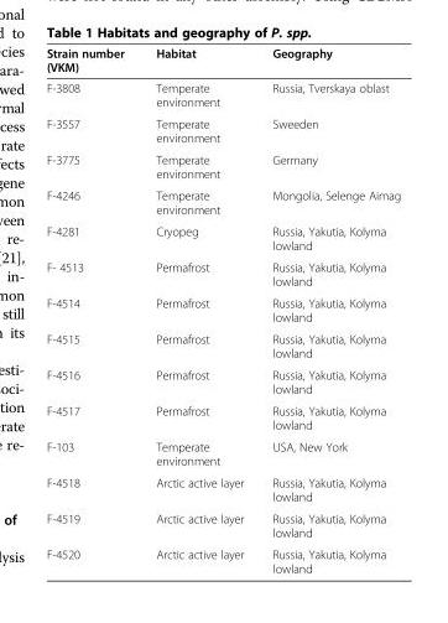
<table><thead><tr><td>Strain number (VKM)</td><td>Habitat</td><td>Geography</td></tr></thead><tbody><tr><td>F-3808</td><td>Temperate environment</td><td>Russia, Tverskaya oblast</td></tr><tr><td>F-3557</td><td>Temperate environment</td><td>Sweeden</td></tr><tr><td>F-3775</td><td>Temperate environment</td><td>Germany</td></tr><tr><td>F-4246</td><td>Temperate environment</td><td>Mongolia, Selenge Aimag</td></tr><tr><td>F-4281</td><td>Cryopeg</td><td>Russia, Yakutia, Kolyma lowland</td></tr><tr><td>F- 4513</td><td>Permafrost</td><td>Russia, Yakutia, Kolyma lowland</td></tr><tr><td>F-4514</td><td>Permafrost</td><td>Russia, Yakutia, Kolyma lowland</td></tr><tr><td>F-4515</td><td>Permafrost</td><td>Russia, Yakutia, Kolyma lowland</td></tr><tr><td>F-4516</td><td>Permafrost</td><td>Russia, Yakutia, Kolyma lowland</td></tr><tr><td>F-4517</td><td>Permafrost</td><td>Russia, Yakutia, Kolyma lowland</td></tr><tr><td>F-103</td><td>Temperate environment</td><td>USA, New York</td></tr><tr><td>F-4518</td><td>Arctic active layer</td><td>Russia, Yakutia, Kolyma lowland</td></tr><tr><td>F-4519</td><td>Arctic active layer</td><td>Russia, Yakutia, Kolyma lowland</td></tr><tr><td>F-4520</td><td>Arctic active layer</td><td>Russia, Yakutia, Kolyma lowland</td></tr></tbody></table>